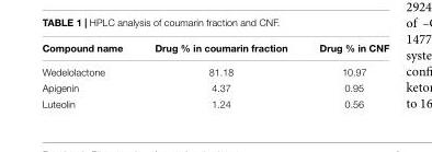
<table><thead><tr><td>Compound name</td><td>Drug % in coumarin fraction</td><td>Drug % in CNF</td></tr></thead><tbody><tr><td>Wedelolactone</td><td>81.18</td><td>10.97</td></tr><tr><td>Apigenin</td><td>4.37</td><td>0.95</td></tr><tr><td>Luteolin</td><td>1.24</td><td>0.56</td></tr></tbody></table>